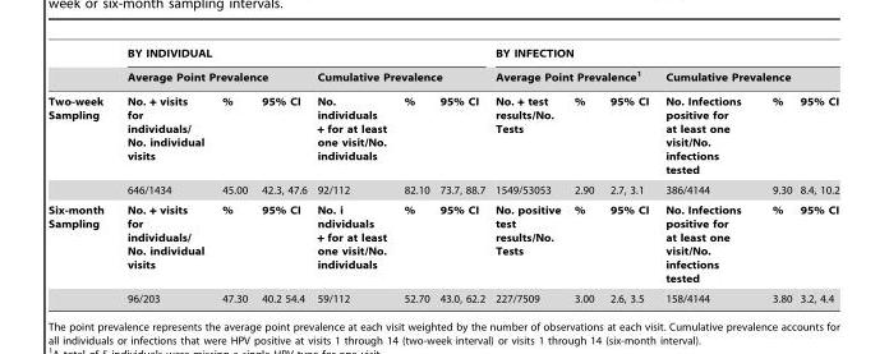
<table><thead><tr><td rowspan="3">Two-week Sampling</td><td colspan="6">BY INDIVIDUAL</td><td colspan="6">BY INFECTION</td></tr><tr><td colspan="3">Average Point Prevalence</td><td colspan="3">Cumulative Prevalence</td><td colspan="3">Average Point Prevalence<sup>1</sup></td><td colspan="3">Cumulative Prevalence</td></tr><tr><td>No. + visits for individuals/ No. individual visits</td><td>%</td><td>95% CI</td><td>No. individuals + for at least one visit/No. individuals</td><td>%</td><td>95% CI</td><td>No. + test results/No. Tests</td><td>%</td><td>95% CI</td><td>No. Infections positive for at least one visit/No. infections tested</td><td>%</td><td>95% CI</td></tr></thead><tbody><tr><td></td><td>646/1434</td><td>45.00</td><td>42.3, 47.6</td><td>92/112</td><td>82.10</td><td>73.7, 88.7</td><td>1549/53053</td><td>2.90</td><td>2.7, 3.1</td><td>386/4144</td><td>9.30</td><td>8.4, 10.2</td></tr><tr><td rowspan="2">Six-month Sampling</td><td>No. + visits for individuals/ No. individual visits</td><td>%</td><td>95% CI</td><td>No. i ndividuals + for at least one visit/No. individuals</td><td>%</td><td>95% CI</td><td>No. positive test results/No. Tests</td><td>%</td><td>95% CI</td><td>No. Infections positive for at least one visit/No. infections tested</td><td>%</td><td>95% CI</td></tr><tr><td>96/203</td><td>47.30</td><td>40.2 54.4</td><td>59/112</td><td>52.70</td><td>43.0, 62.2</td><td>227/7509</td><td>3.00</td><td>2.6, 3.5</td><td>158/4144</td><td>3.80</td><td>3.2, 4.4</td></tr></tbody></table>